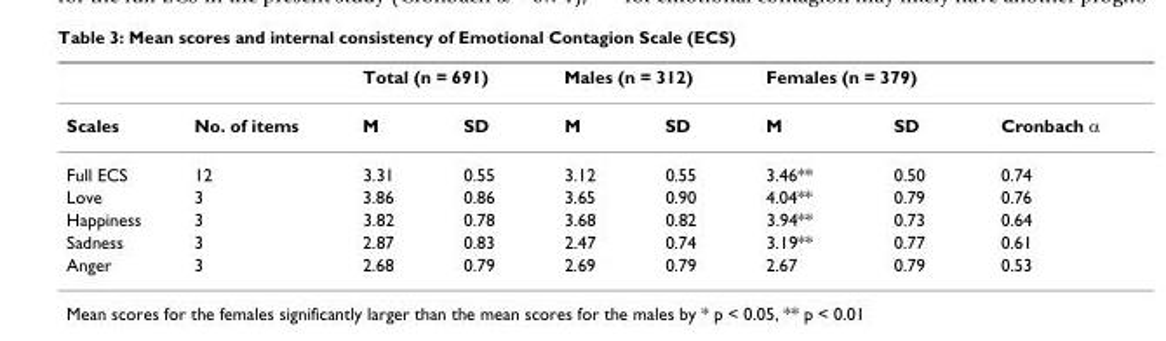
<table><thead><tr><td rowspan="2">Scales</td><td rowspan="2">No. of items</td><td colspan="2">Total (n = 691)</td><td colspan="2">Males (n = 312)</td><td colspan="2">Females (n = 379)</td><td rowspan="2">Cronbach α</td></tr><tr><td>M</td><td>SD</td><td>M</td><td>SD</td><td>M</td><td>SD</td></tr></thead><tbody><tr><td>Full ECS</td><td>12</td><td>3.31</td><td>0.55</td><td>3.12</td><td>0.55</td><td>3.46**</td><td>0.50</td><td>0.74</td></tr><tr><td>Love</td><td>3</td><td>3.86</td><td>0.86</td><td>3.65</td><td>0.90</td><td>4.04**</td><td>0.79</td><td>0.76</td></tr><tr><td>Happiness</td><td>3</td><td>3.82</td><td>0.78</td><td>3.68</td><td>0.82</td><td>3.94**</td><td>0.73</td><td>0.64</td></tr><tr><td>Sadness</td><td>3</td><td>2.87</td><td>0.83</td><td>2.47</td><td>0.74</td><td>3.19**</td><td>0.77</td><td>0.61</td></tr><tr><td>Anger</td><td>3</td><td>2.68</td><td>0.79</td><td>2.69</td><td>0.79</td><td>2.67</td><td>0.79</td><td>0.53</td></tr></tbody></table>